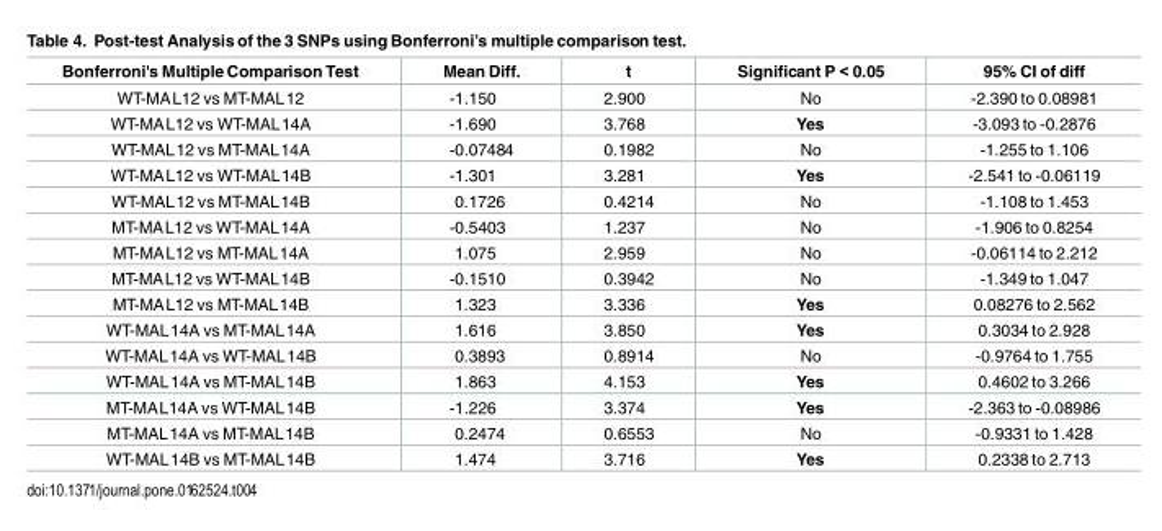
<table><thead><tr><td>Bonferroni&#x27;s Multiple Comparison Test</td><td>Mean Diff.</td><td>t</td><td>Significant P &lt; 0.05</td><td>95% CI of diff</td></tr></thead><tbody><tr><td>WT-MAL12 vs MT-MAL12</td><td>-1.150</td><td>2.900</td><td>No</td><td>-2.390 to 0.08981</td></tr><tr><td>WT-MAL12 vs WT-MAL14A</td><td>-1.690</td><td>3.768</td><td>Yes</td><td>-3.093 to -0.2876</td></tr><tr><td>WT-MAL12 vs MT-MAL14A</td><td>-0.07484</td><td>0.1982</td><td>No</td><td>-1.255 to 1.106</td></tr><tr><td>WT-MAL12 vs WT-MAL14B</td><td>-1.301</td><td>3.281</td><td>Yes</td><td>-2.541 to -0.06119</td></tr><tr><td>WT-MAL12 vs MT-MAL14B</td><td>0.1726</td><td>0.4214</td><td>No</td><td>-1.108 to 1.453</td></tr><tr><td>MT-MAL12 vs WT-MAL14A</td><td>-0.5403</td><td>1.237</td><td>No</td><td>-1.906 to 0.8254</td></tr><tr><td>MT-MAL12 vs MT-MAL14A</td><td>1.075</td><td>2.959</td><td>No</td><td>-0.06114 to 2.212</td></tr><tr><td>MT-MAL12 vs WT-MAL14B</td><td>-0.1510</td><td>0.3942</td><td>No</td><td>-1.349 to 1.047</td></tr><tr><td>MT-MAL12 vs MT-MAL14B</td><td>1.323</td><td>3.336</td><td>Yes</td><td>0.08276 to 2.562</td></tr><tr><td>WT-MAL14A vs MT-MAL14A</td><td>1.616</td><td>3.850</td><td>Yes</td><td>0.3034 to 2.928</td></tr><tr><td>WT-MAL14A vs WT-MAL14B</td><td>0.3893</td><td>0.8914</td><td>No</td><td>-0.9764 to 1.755</td></tr><tr><td>WT-MAL14A vs MT-MAL14B</td><td>1.863</td><td>4.153</td><td>Yes</td><td>0.4602 to 3.266</td></tr><tr><td>MT-MAL14A vs WT-MAL14B</td><td>-1.226</td><td>3.374</td><td>Yes</td><td>-2.363 to -0.08986</td></tr><tr><td>MT-MAL14A vs MT-MAL14B</td><td>0.2474</td><td>0.6553</td><td>No</td><td>-0.9331 to 1.428</td></tr><tr><td>WT-MAL14B vs MT-MAL14B</td><td>1.474</td><td>3.716</td><td>Yes</td><td>0.2338 to 2.713</td></tr></tbody></table>